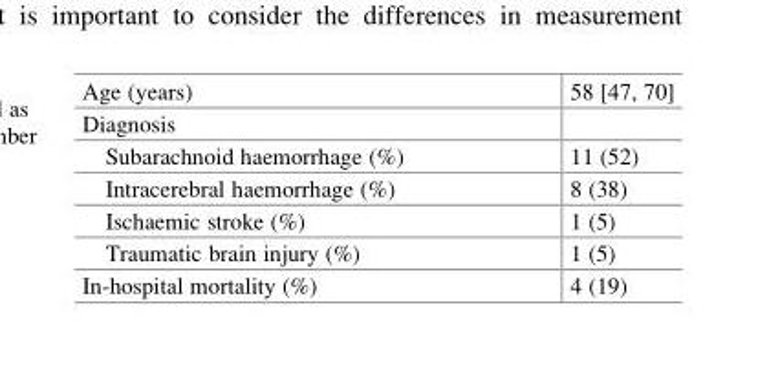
<table><tbody><tr><td>Age (years)</td><td>58 [47, 70]</td></tr><tr><td colspan="2">Diagnosis</td></tr><tr><td>Subarachnoid haemorrhage (%)</td><td>11 (52)</td></tr><tr><td>Intracerebral haemorrhage (%)</td><td>8 (38)</td></tr><tr><td>Ischaemic stroke (%)</td><td>1 (5)</td></tr><tr><td>Traumatic brain injury (%)</td><td>1 (5)</td></tr><tr><td>In-hospital mortality (%)</td><td>4 (19)</td></tr></tbody></table>